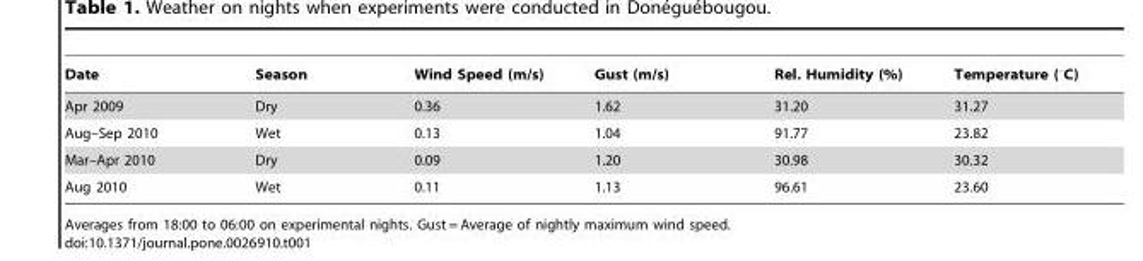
<table><thead><tr><td>Date</td><td>Season</td><td>Wind Speed (m/s)</td><td>Gust (m/s)</td><td>Rel. Humidity (%)</td><td>Temperature (0C)</td></tr></thead><tbody><tr><td>Apr 2009</td><td>Dry</td><td>0.36</td><td>1.62</td><td>31.20</td><td>31.27</td></tr><tr><td>Aug–Sep 2010</td><td>Wet</td><td>0.13</td><td>1.04</td><td>91.77</td><td>23.82</td></tr><tr><td>Mar–Apr 2010</td><td>Dry</td><td>0.09</td><td>1.20</td><td>30.98</td><td>30.32</td></tr><tr><td>Aug 2010</td><td>Wet</td><td>0.11</td><td>1.13</td><td>96.61</td><td>23.60</td></tr></tbody></table>